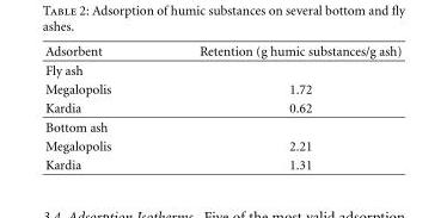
<table><thead><tr><td>Adsorbent</td><td>Retention (g humic substances/g ash)</td></tr></thead><tbody><tr><td colspan="2">Fly ash</td></tr><tr><td>Megalopolis</td><td>1.72</td></tr><tr><td>Kardia</td><td>0.62</td></tr><tr><td colspan="2">Bottom ash</td></tr><tr><td>Megalopolis</td><td>2.21</td></tr><tr><td>Kardia</td><td>1.31</td></tr></tbody></table>